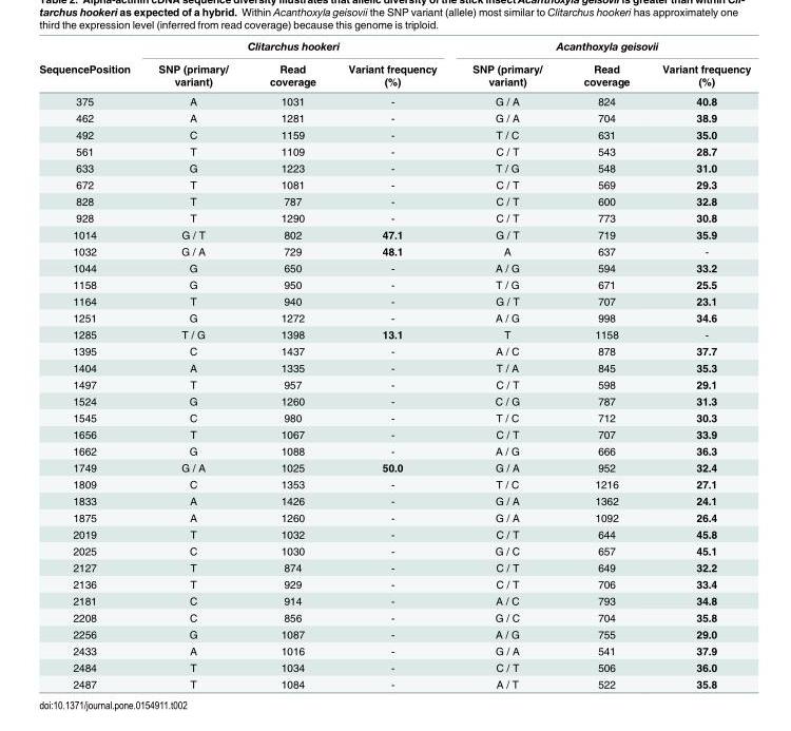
<table><thead><tr><td rowspan="2">SequencePosition</td><td colspan="3">Clitarchus hookeri</td><td colspan="3">Acanthoxyla geisovii</td></tr><tr><td>SNP (primary/ variant)</td><td>Read coverage</td><td>Variant frequency (%)</td><td>SNP (primary/ variant)</td><td>Read coverage</td><td>Variant frequency (%)</td></tr></thead><tbody><tr><td>375</td><td>A</td><td>1031</td><td>-</td><td>G / A</td><td>824</td><td>40.8</td></tr><tr><td>462</td><td>A</td><td>1281</td><td>-</td><td>G / A</td><td>704</td><td>38.9</td></tr><tr><td>492</td><td>C</td><td>1159</td><td>-</td><td>T / C</td><td>631</td><td>35.0</td></tr><tr><td>561</td><td>T</td><td>1109</td><td>-</td><td>C / T</td><td>543</td><td>28.7</td></tr><tr><td>633</td><td>G</td><td>1223</td><td>-</td><td>T / G</td><td>548</td><td>31.0</td></tr><tr><td>672</td><td>T</td><td>1081</td><td>-</td><td>C / T</td><td>569</td><td>29.3</td></tr><tr><td>828</td><td>T</td><td>787</td><td>-</td><td>C / T</td><td>600</td><td>32.8</td></tr><tr><td>928</td><td>T</td><td>1290</td><td>-</td><td>C / T</td><td>773</td><td>30.8</td></tr><tr><td>1014</td><td>G / T</td><td>802</td><td>47.1</td><td>G / T</td><td>719</td><td>35.9</td></tr><tr><td>1032</td><td>G / A</td><td>729</td><td>48.1</td><td>A</td><td>637</td><td>-</td></tr><tr><td>1044</td><td>G</td><td>650</td><td>-</td><td>A / G</td><td>594</td><td>33.2</td></tr><tr><td>1158</td><td>G</td><td>950</td><td>-</td><td>T / G</td><td>671</td><td>25.5</td></tr><tr><td>1164</td><td>T</td><td>940</td><td>-</td><td>G / T</td><td>707</td><td>23.1</td></tr><tr><td>1251</td><td>G</td><td>1272</td><td>-</td><td>A / G</td><td>998</td><td>34.6</td></tr><tr><td>1285</td><td>T / G</td><td>1398</td><td>13.1</td><td>T</td><td>1158</td><td>-</td></tr><tr><td>1395</td><td>C</td><td>1437</td><td>-</td><td>A / C</td><td>878</td><td>37.7</td></tr><tr><td>1404</td><td>A</td><td>1335</td><td>-</td><td>T / A</td><td>845</td><td>35.3</td></tr><tr><td>1497</td><td>T</td><td>957</td><td>-</td><td>C / T</td><td>598</td><td>29.1</td></tr><tr><td>1524</td><td>G</td><td>1260</td><td>-</td><td>C / G</td><td>787</td><td>31.3</td></tr><tr><td>1545</td><td>C</td><td>980</td><td>-</td><td>T / C</td><td>712</td><td>30.3</td></tr><tr><td>1656</td><td>T</td><td>1067</td><td>-</td><td>C / T</td><td>707</td><td>33.9</td></tr><tr><td>1662</td><td>G</td><td>1088</td><td>-</td><td>A / G</td><td>666</td><td>36.3</td></tr><tr><td>1749</td><td>G / A</td><td>1025</td><td>50.0</td><td>G / A</td><td>952</td><td>32.4</td></tr><tr><td>1809</td><td>C</td><td>1353</td><td>-</td><td>T / C</td><td>1216</td><td>27.1</td></tr><tr><td>1833</td><td>A</td><td>1426</td><td>-</td><td>G / A</td><td>1362</td><td>24.1</td></tr><tr><td>1875</td><td>A</td><td>1260</td><td>-</td><td>G / A</td><td>1092</td><td>26.4</td></tr><tr><td>2019</td><td>T</td><td>1032</td><td>-</td><td>C / T</td><td>644</td><td>45.8</td></tr><tr><td>2025</td><td>C</td><td>1030</td><td>-</td><td>G / C</td><td>657</td><td>45.1</td></tr><tr><td>2127</td><td>T</td><td>874</td><td>-</td><td>C / T</td><td>649</td><td>32.2</td></tr><tr><td>2136</td><td>T</td><td>929</td><td>-</td><td>C / T</td><td>706</td><td>33.4</td></tr><tr><td>2181</td><td>C</td><td>914</td><td>-</td><td>A / C</td><td>793</td><td>34.8</td></tr><tr><td>2208</td><td>C</td><td>856</td><td>-</td><td>G / C</td><td>704</td><td>35.8</td></tr><tr><td>2256</td><td>G</td><td>1087</td><td>-</td><td>A / G</td><td>755</td><td>29.0</td></tr><tr><td>2433</td><td>A</td><td>1016</td><td>-</td><td>G / A</td><td>541</td><td>37.9</td></tr><tr><td>2484</td><td>T</td><td>1034</td><td>-</td><td>C / T</td><td>506</td><td>36.0</td></tr><tr><td>2487</td><td>T</td><td>1084</td><td>-</td><td>A / T</td><td>522</td><td>35.8</td></tr></tbody></table>